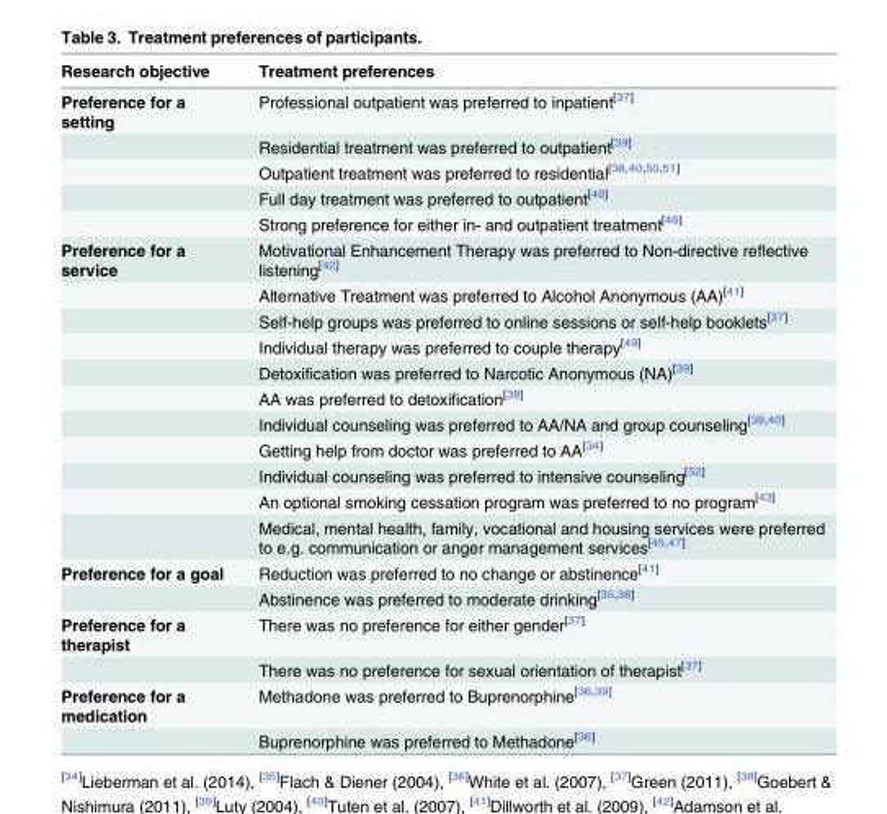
<table><thead><tr><td>Research objective</td><td>Treatment preferences</td></tr></thead><tbody><tr><td rowspan="5">Preference for a setting</td><td>Professional outpatient was preferred to inpatient<sup>[37]</sup></td></tr><tr><td>Residential treatment was preferred to outpatient<sup>[39]</sup></td></tr><tr><td>Outpatient treatment was preferred to residential<sup>[38,40,50,51]</sup></td></tr><tr><td>Full day treatment was preferred to outpatient<sup>[48]</sup></td></tr><tr><td>Strong preference for either in- and outpatient treatment<sup>[46]</sup></td></tr><tr><td rowspan="11">Preference for a service</td><td>Motivational Enhancement Therapy was preferred to Non-directive reflective listening<sup>[42]</sup></td></tr><tr><td>Alternative Treatment was preferred to Alcohol Anonymous (AA)<sup>[41]</sup></td></tr><tr><td>Self-help groups was preferred to online sessions or self-help booklets<sup>[37]</sup></td></tr><tr><td>Individual therapy was preferred to couple therapy<sup>[49]</sup></td></tr><tr><td>Detoxification was preferred to Narcotic Anonymous (NA)<sup>[39]</sup></td></tr><tr><td>AA was preferred to detoxification<sup>[38]</sup></td></tr><tr><td>Individual counseling was preferred to AA/NA and group counseling<sup>[39,40]</sup></td></tr><tr><td>Getting help from doctor was preferred to AA<sup>[34]</sup></td></tr><tr><td>Individual counseling was preferred to intensive counseling<sup>[52]</sup></td></tr><tr><td>An optional smoking cessation program was preferred to no program<sup>[43]</sup></td></tr><tr><td>Medical, mental health, family, vocational and housing services were preferred to e.g. communication or anger management services<sup>[45,47]</sup></td></tr><tr><td rowspan="2">Preference for a goal</td><td>Reduction was preferred to no change or abstinence<sup>[41]</sup></td></tr><tr><td>Abstinence was preferred to moderate drinking<sup>[35,38]</sup></td></tr><tr><td rowspan="2">Preference for a therapist</td><td>There was no preference for either gender<sup>[37]</sup></td></tr><tr><td>There was no preference for sexual orientation of therapist<sup>[37]</sup></td></tr><tr><td rowspan="2">Preference for a medication</td><td>Methadone was preferred to Buprenorphine<sup>[36,39]</sup></td></tr><tr><td>Buprenorphine was preferred to Methadone<sup>[36]</sup></td></tr></tbody></table>